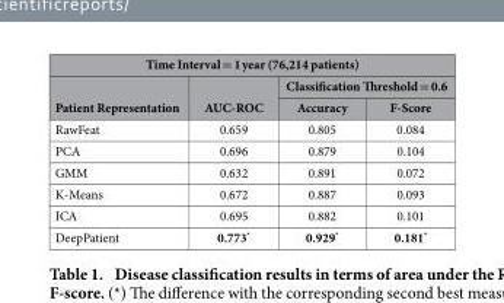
<table><thead><tr><td colspan="4">Time Interval = 1 year (76,214 patients)</td></tr><tr><td rowspan="2">Patient Representation</td><td rowspan="2">AUC-ROC</td><td colspan="2">Classification Threshold = 0.6</td></tr><tr><td>Accuracy</td><td>F-Score</td></tr></thead><tbody><tr><td>RawFeat</td><td>0.659</td><td>0.805</td><td>0.084</td></tr><tr><td>PCA</td><td>0.696</td><td>0.879</td><td>0.104</td></tr><tr><td>GMM</td><td>0.632</td><td>0.891</td><td>0.072</td></tr><tr><td>K-Means</td><td>0.672</td><td>0.887</td><td>0.093</td></tr><tr><td>ICA</td><td>0.695</td><td>0.882</td><td>0.101</td></tr><tr><td>DeepPatient</td><td>0.773*</td><td>0.929*</td><td>0.181*</td></tr></tbody></table>